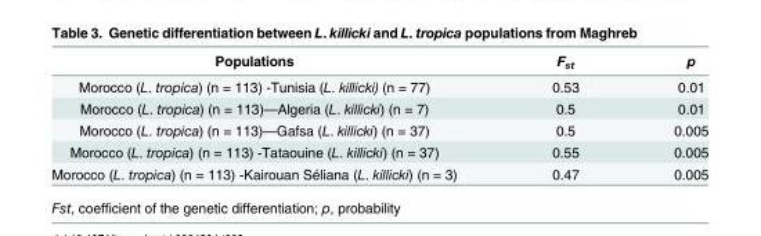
<table><thead><tr><td>Populations</td><td>F<sub>st</sub></td><td>p</td></tr></thead><tbody><tr><td>Morocco (L. tropica) (n = 113) -Tunisia (L. killicki) (n = 77)</td><td>0.53</td><td>0.01</td></tr><tr><td>Morocco (L. tropica) (n = 113)—Algeria (L. killicki) (n = 7)</td><td>0.5</td><td>0.01</td></tr><tr><td>Morocco (L. tropica) (n = 113)—Gafsa (L. killicki) (n = 37)</td><td>0.5</td><td>0.005</td></tr><tr><td>Morocco (L. tropica) (n = 113) -Tataouine (L. killicki) (n = 37)</td><td>0.55</td><td>0.005</td></tr><tr><td>Morocco (L. tropica) (n = 113) -Kairouan Séliana (L. killicki) (n = 3)</td><td>0.47</td><td>0.005</td></tr></tbody></table>